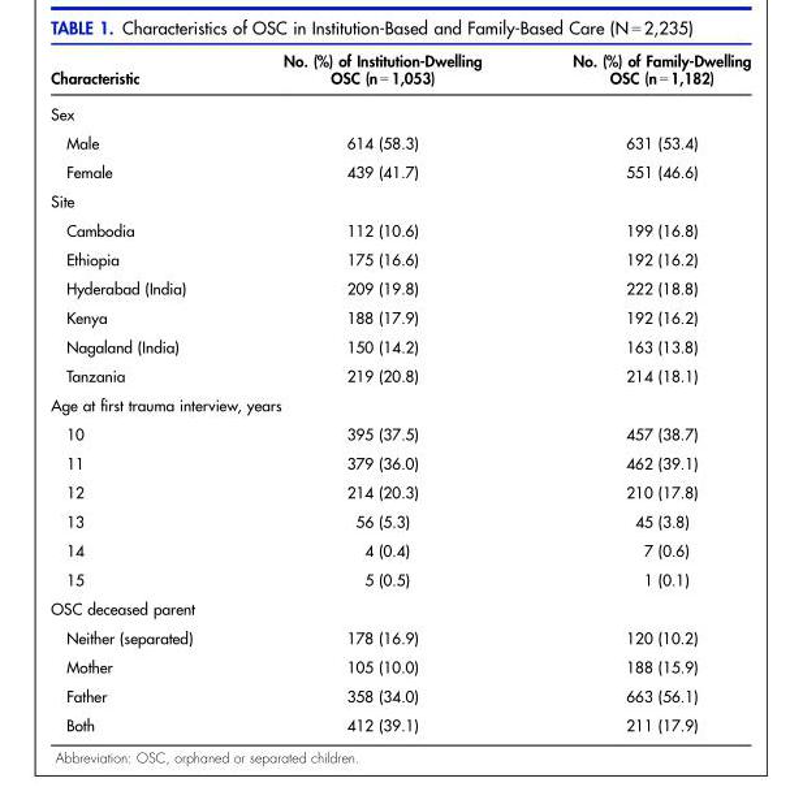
<table><thead><tr><td>Characteristic</td><td>No. (%) of Institution-Dwelling OSC (n = 1,053)</td><td>No. (%) of Family-Dwelling OSC (n = 1,182)</td></tr></thead><tbody><tr><td colspan="3">Sex</td></tr><tr><td>Male</td><td>614 (58.3)</td><td>631 (53.4)</td></tr><tr><td>Female</td><td>439 (41.7)</td><td>551 (46.6)</td></tr><tr><td colspan="3">Site</td></tr><tr><td>Cambodia</td><td>112 (10.6)</td><td>199 (16.8)</td></tr><tr><td>Ethiopia</td><td>175 (16.6)</td><td>192 (16.2)</td></tr><tr><td>Hyderabad (India)</td><td>209 (19.8)</td><td>222 (18.8)</td></tr><tr><td>Kenya</td><td>188 (17.9)</td><td>192 (16.2)</td></tr><tr><td>Nagaland (India)</td><td>150 (14.2)</td><td>163 (13.8)</td></tr><tr><td>Tanzania</td><td>219 (20.8)</td><td>214 (18.1)</td></tr><tr><td colspan="3">Age at first trauma interview, years</td></tr><tr><td>10</td><td>395 (37.5)</td><td>457 (38.7)</td></tr><tr><td>11</td><td>379 (36.0)</td><td>462 (39.1)</td></tr><tr><td>12</td><td>214 (20.3)</td><td>210 (17.8)</td></tr><tr><td>13</td><td>56 (5.3)</td><td>45 (3.8)</td></tr><tr><td>14</td><td>4 (0.4)</td><td>7 (0.6)</td></tr><tr><td>15</td><td>5 (0.5)</td><td>1 (0.1)</td></tr><tr><td colspan="3">OSC deceased parent</td></tr><tr><td>Neither (separated)</td><td>178 (16.9)</td><td>120 (10.2)</td></tr><tr><td>Mother</td><td>105 (10.0)</td><td>188 (15.9)</td></tr><tr><td>Father</td><td>358 (34.0)</td><td>663 (56.1)</td></tr><tr><td>Both</td><td>412 (39.1)</td><td>211 (17.9)</td></tr></tbody></table>